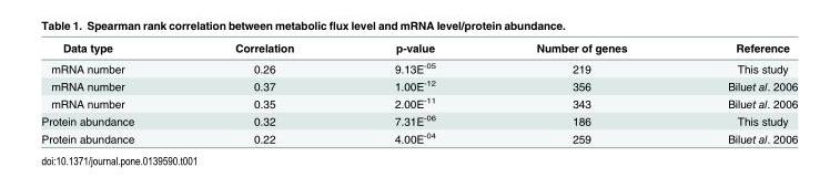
<table><thead><tr><td>Data type</td><td>Correlation</td><td>p-value</td><td>Number of genes</td><td>Reference</td></tr></thead><tbody><tr><td>mRNA number</td><td>0.26</td><td>9.13E<sup>-05</sup></td><td>219</td><td>This study</td></tr><tr><td>mRNA number</td><td>0.37</td><td>1.00E<sup>-12</sup></td><td>356</td><td>Biluet al. 2006</td></tr><tr><td>mRNA number</td><td>0.35</td><td>2.00E<sup>-11</sup></td><td>343</td><td>Biluet al. 2006</td></tr><tr><td>Protein abundance</td><td>0.32</td><td>7.31E<sup>-06</sup></td><td>186</td><td>This study</td></tr><tr><td>Protein abundance</td><td>0.22</td><td>4.00E<sup>-04</sup></td><td>259</td><td>Biluet al. 2006</td></tr></tbody></table>